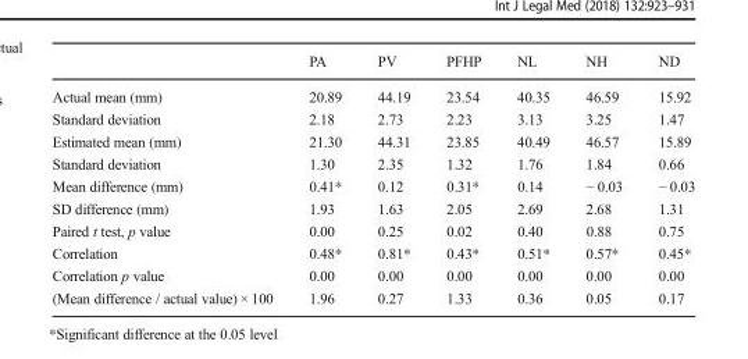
<table><thead><tr><td></td><td>PA</td><td>PV</td><td>PFHP</td><td>NL</td><td>NH</td><td>ND</td></tr></thead><tbody><tr><td>Actual mean (mm)</td><td>20.89</td><td>44.19</td><td>23.54</td><td>40.35</td><td>46.59</td><td>15.92</td></tr><tr><td>Standard deviation</td><td>2.18</td><td>2.73</td><td>2.23</td><td>3.13</td><td>3.25</td><td>1.47</td></tr><tr><td>Estimated mean (mm)</td><td>21.30</td><td>44.31</td><td>23.85</td><td>40.49</td><td>46.57</td><td>15.89</td></tr><tr><td>Standard deviation</td><td>1.30</td><td>2.35</td><td>1.32</td><td>1.76</td><td>1.84</td><td>0.66</td></tr><tr><td>Mean difference (mm)</td><td>0.41*</td><td>0.12</td><td>0.31*</td><td>0.14</td><td>− 0.03</td><td>− 0.03</td></tr><tr><td>SD difference (mm)</td><td>1.93</td><td>1.63</td><td>2.05</td><td>2.69</td><td>2.68</td><td>1.31</td></tr><tr><td>Paired t test, p value</td><td>0.00</td><td>0.25</td><td>0.02</td><td>0.40</td><td>0.88</td><td>0.75</td></tr><tr><td>Correlation</td><td>0.48*</td><td>0.81*</td><td>0.43*</td><td>0.51*</td><td>0.57*</td><td>0.45*</td></tr><tr><td>Correlation p value</td><td>0.00</td><td>0.00</td><td>0.00</td><td>0.00</td><td>0.00</td><td>0.00</td></tr><tr><td>(Mean difference / actual value) × 100</td><td>1.96</td><td>0.27</td><td>1.33</td><td>0.36</td><td>0.05</td><td>0.17</td></tr></tbody></table>